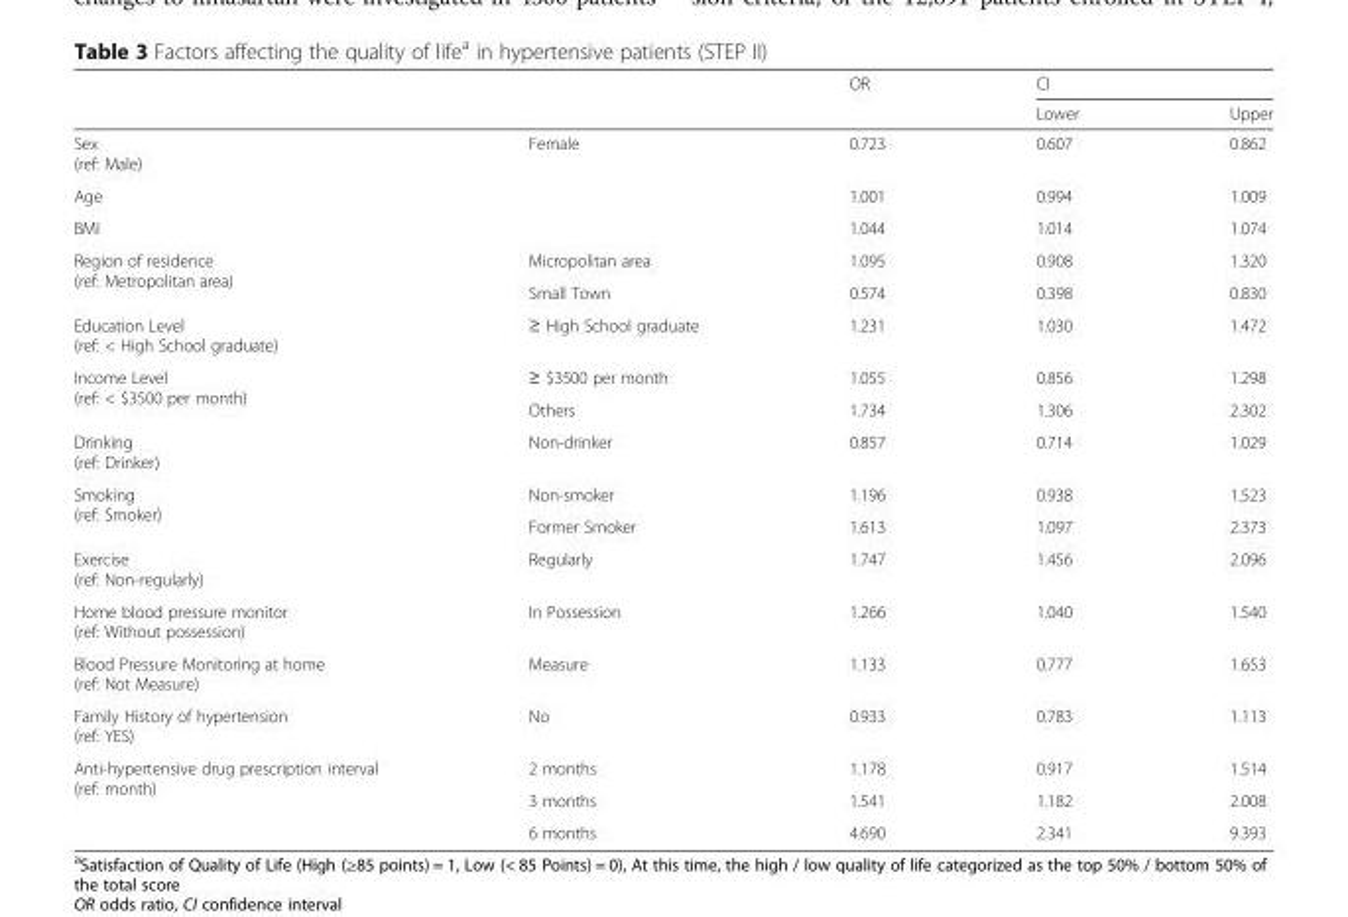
<table><thead><tr><td rowspan="2"></td><td rowspan="2"></td><td rowspan="2">OR</td><td colspan="2">CI</td></tr><tr><td>Lower</td><td>Upper</td></tr></thead><tbody><tr><td>Sex (ref: Male)</td><td>Female</td><td>0.723</td><td>0.607</td><td>0.862</td></tr><tr><td>Age</td><td></td><td>1.001</td><td>0.994</td><td>1.009</td></tr><tr><td>BMI</td><td></td><td>1.044</td><td>1.014</td><td>1.074</td></tr><tr><td rowspan="2">Region of residence (ref: Metropolitan area)</td><td>Micropolitan area</td><td>1.095</td><td>0.908</td><td>1.320</td></tr><tr><td>Small Town</td><td>0.574</td><td>0.398</td><td>0.830</td></tr><tr><td>Education Level (ref: &lt; High School graduate)</td><td>≥ High School graduate</td><td>1.231</td><td>1.030</td><td>1.472</td></tr><tr><td rowspan="2">Income Level (ref: &lt; $3500 per month)</td><td>≥ $3500 per month</td><td>1.055</td><td>0.856</td><td>1.298</td></tr><tr><td>Others</td><td>1.734</td><td>1.306</td><td>2.302</td></tr><tr><td>Drinking (ref: Drinker)</td><td>Non-drinker</td><td>0.857</td><td>0.714</td><td>1.029</td></tr><tr><td rowspan="2">Smoking (ref: Smoker)</td><td>Non-smoker</td><td>1.196</td><td>0.938</td><td>1.523</td></tr><tr><td>Former Smoker</td><td>1.613</td><td>1.097</td><td>2.373</td></tr><tr><td>Exercise (ref: Non-regularly)</td><td>Regularly</td><td>1.747</td><td>1.456</td><td>2.096</td></tr><tr><td>Home blood pressure monitor (ref: Without possession)</td><td>In Possession</td><td>1.266</td><td>1.040</td><td>1.540</td></tr><tr><td>Blood Pressure Monitoring at home (ref: Not Measure)</td><td>Measure</td><td>1.133</td><td>0.777</td><td>1.653</td></tr><tr><td>Family History of hypertension (ref: YES)</td><td>No</td><td>0.933</td><td>0.783</td><td>1.113</td></tr><tr><td rowspan="3">Anti-hypertensive drug prescription interval (ref: month)</td><td>2 months</td><td>1.178</td><td>0.917</td><td>1.514</td></tr><tr><td>3 months</td><td>1.541</td><td>1.182</td><td>2.008</td></tr><tr><td>6 months</td><td>4.690</td><td>2.341</td><td>9.393</td></tr></tbody></table>